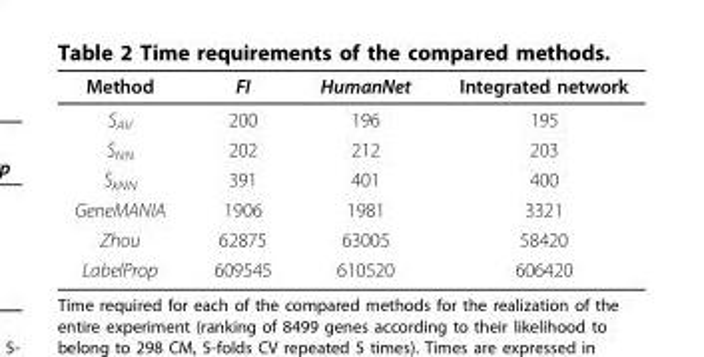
<table><thead><tr><td>Method</td><td>FI</td><td>HumanNet</td><td>Integrated network</td></tr></thead><tbody><tr><td>S<sub>AV</sub></td><td>200</td><td>196</td><td>195</td></tr><tr><td>S<sub>NN</sub></td><td>202</td><td>212</td><td>203</td></tr><tr><td>S<sub>kNN</sub></td><td>391</td><td>401</td><td>400</td></tr><tr><td>GeneMANIA</td><td>1906</td><td>1981</td><td>3321</td></tr><tr><td>Zhou</td><td>62875</td><td>63005</td><td>58420</td></tr><tr><td>LabelProp</td><td>609545</td><td>610520</td><td>606420</td></tr></tbody></table>